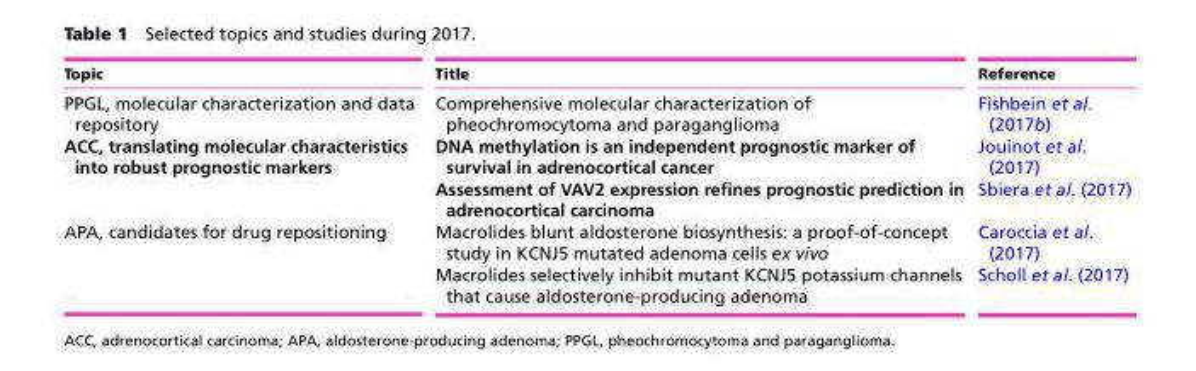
<table><thead><tr><td>Topic</td><td>Title</td><td>Reference</td></tr></thead><tbody><tr><td>PPGL, molecular characterization and data repository</td><td>Comprehensive molecular characterization of pheochromocytoma and paraganglioma</td><td>Fishbein et al. (2017b)</td></tr><tr><td rowspan="2">ACC, translating molecular characteristics into robust prognostic markers</td><td>DNA methylation is an independent prognostic marker of survival in adrenocortical cancer</td><td>Jouinot et al. (2017)</td></tr><tr><td>Assessment of VAV2 expression refines prognostic prediction in adrenocortical carcinoma</td><td>Sbiera et al. (2017)</td></tr><tr><td rowspan="2">APA, candidates for drug repositioning</td><td>Macrolides blunt aldosterone biosynthesis: a proof-of-concept study in KCNJ5 mutated adenoma cells ex vivo</td><td>Caroccia et al. (2017)</td></tr><tr><td>Macrolides selectively inhibit mutant KCNJ5 potassium channels that cause aldosterone-producing adenoma</td><td>Scholl et al. (2017)</td></tr></tbody></table>